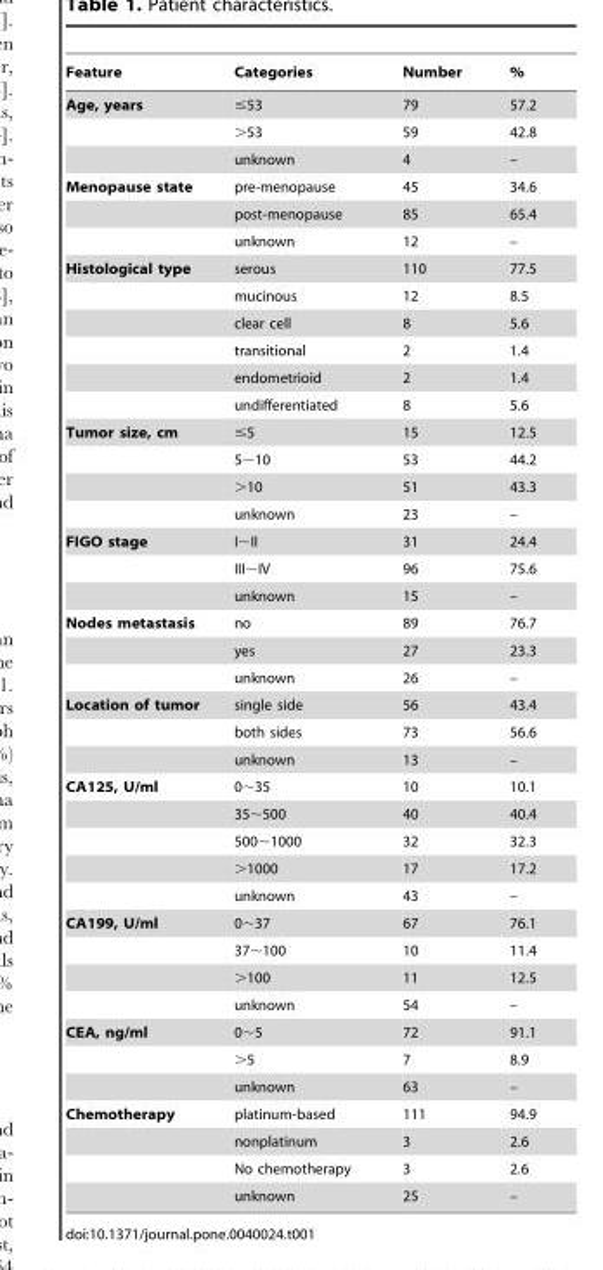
<table><thead><tr><td>Feature</td><td>Categories</td><td>Number</td><td>%</td></tr></thead><tbody><tr><td rowspan="3">Age, years</td><td>≤53</td><td>79</td><td>57.2</td></tr><tr><td>&gt;53</td><td>59</td><td>42.8</td></tr><tr><td>unknown</td><td>4</td><td>–</td></tr><tr><td rowspan="3">Menopause state</td><td>pre-menopause</td><td>45</td><td>34.6</td></tr><tr><td>post-menopause</td><td>85</td><td>65.4</td></tr><tr><td>unknown</td><td>12</td><td>–</td></tr><tr><td rowspan="6">Histological type</td><td>serous</td><td>110</td><td>77.5</td></tr><tr><td>mucinous</td><td>12</td><td>8.5</td></tr><tr><td>clear cell</td><td>8</td><td>5.6</td></tr><tr><td>transitional</td><td>2</td><td>1.4</td></tr><tr><td>endometrioid</td><td>2</td><td>1.4</td></tr><tr><td>undifferentiated</td><td>8</td><td>5.6</td></tr><tr><td rowspan="4">Tumor size, cm</td><td>≤5</td><td>15</td><td>12.5</td></tr><tr><td>5∼10</td><td>53</td><td>44.2</td></tr><tr><td>&gt;10</td><td>51</td><td>43.3</td></tr><tr><td>unknown</td><td>23</td><td>–</td></tr><tr><td rowspan="3">FIGO stage</td><td>I∼II</td><td>31</td><td>24.4</td></tr><tr><td>III∼IV</td><td>96</td><td>75.6</td></tr><tr><td>unknown</td><td>15</td><td>–</td></tr><tr><td rowspan="3">Nodes metastasis</td><td>no</td><td>89</td><td>76.7</td></tr><tr><td>yes</td><td>27</td><td>23.3</td></tr><tr><td>unknown</td><td>26</td><td>–</td></tr><tr><td rowspan="3">Location of tumor</td><td>single side</td><td>56</td><td>43.4</td></tr><tr><td>both sides</td><td>73</td><td>56.6</td></tr><tr><td>unknown</td><td>13</td><td>–</td></tr><tr><td rowspan="5">CA125, U/ml</td><td>0∼35</td><td>10</td><td>10.1</td></tr><tr><td>35∼500</td><td>40</td><td>40.4</td></tr><tr><td>500∼1000</td><td>32</td><td>32.3</td></tr><tr><td>&gt;1000</td><td>17</td><td>17.2</td></tr><tr><td>unknown</td><td>43</td><td>–</td></tr><tr><td rowspan="4">CA199, U/ml</td><td>0∼37</td><td>67</td><td>76.1</td></tr><tr><td>37∼100</td><td>10</td><td>11.4</td></tr><tr><td>&gt;100</td><td>11</td><td>12.5</td></tr><tr><td>unknown</td><td>54</td><td>–</td></tr><tr><td rowspan="3">CEA, ng/ml</td><td>0∼5</td><td>72</td><td>91.1</td></tr><tr><td>&gt;5</td><td>7</td><td>8.9</td></tr><tr><td>unknown</td><td>63</td><td>–</td></tr><tr><td rowspan="4">Chemotherapy</td><td>platinum-based</td><td>111</td><td>94.9</td></tr><tr><td>nonplatinum</td><td>3</td><td>2.6</td></tr><tr><td>No chemotherapy</td><td>3</td><td>2.6</td></tr><tr><td>unknown</td><td>25</td><td>–</td></tr></tbody></table>